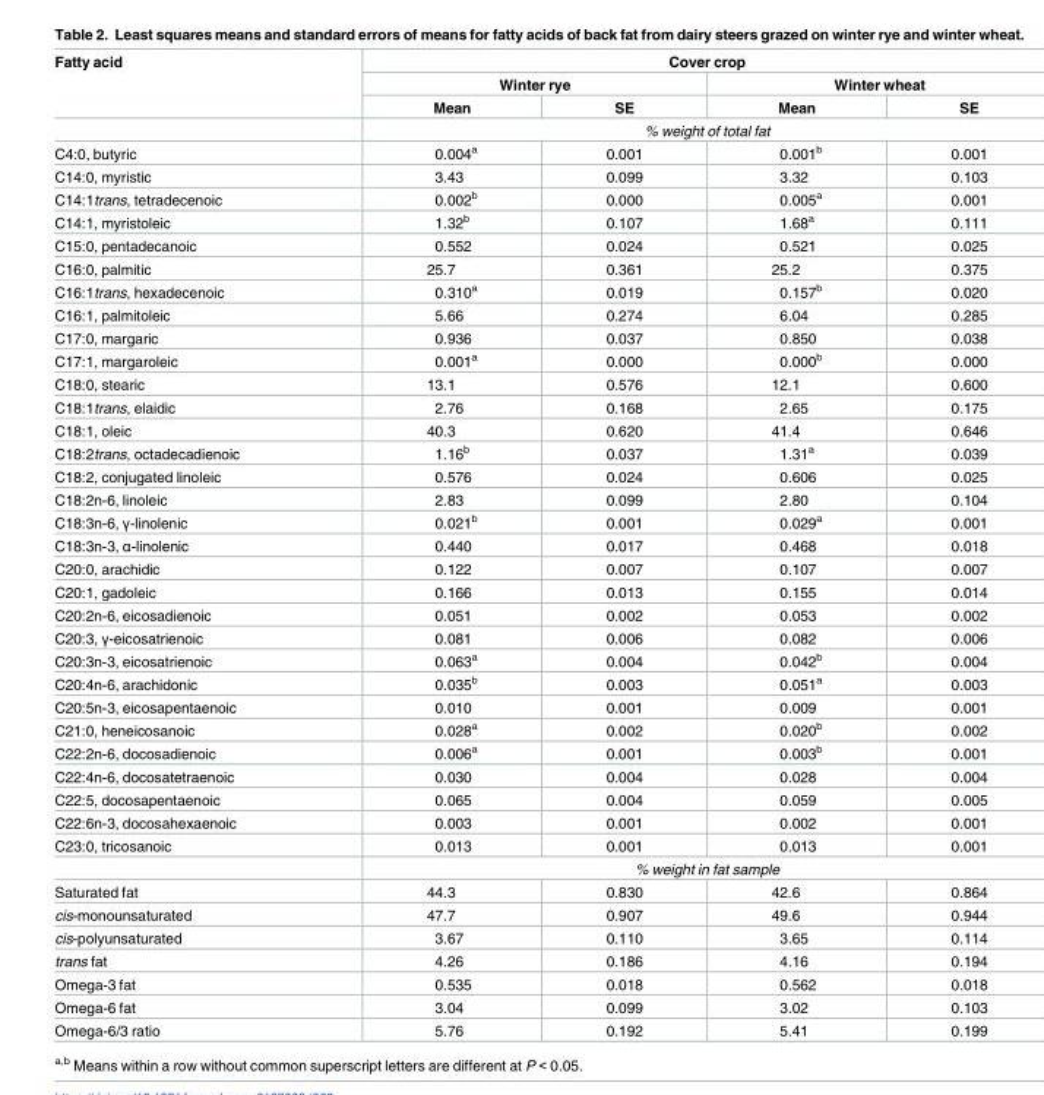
<table><thead><tr><td rowspan="3">Fatty acid</td><td colspan="4">Cover crop</td></tr><tr><td colspan="2">Winter rye</td><td colspan="2">Winter wheat</td></tr><tr><td>Mean</td><td>SE</td><td>Mean</td><td>SE</td></tr></thead><tbody><tr><td></td><td colspan="4">% weight of total fat</td></tr><tr><td>C4:0, butyric</td><td>0.004<sup>a</sup></td><td>0.001</td><td>0.001<sup>b</sup></td><td>0.001</td></tr><tr><td>C14:0, myristic</td><td>3.43</td><td>0.099</td><td>3.32</td><td>0.103</td></tr><tr><td>C14:1trans, tetradecenoic</td><td>0.002<sup>b</sup></td><td>0.000</td><td>0.005<sup>a</sup></td><td>0.001</td></tr><tr><td>C14:1, myristoleic</td><td>1.32<sup>b</sup></td><td>0.107</td><td>1.68<sup>a</sup></td><td>0.111</td></tr><tr><td>C15:0, pentadecanoic</td><td>0.552</td><td>0.024</td><td>0.521</td><td>0.025</td></tr><tr><td>C16:0, palmitic</td><td>25.7</td><td>0.361</td><td>25.2</td><td>0.375</td></tr><tr><td>C16:1trans, hexadecenoic</td><td>0.310<sup>a</sup></td><td>0.019</td><td>0.157<sup>b</sup></td><td>0.020</td></tr><tr><td>C16:1, palmitoleic</td><td>5.66</td><td>0.274</td><td>6.04</td><td>0.285</td></tr><tr><td>C17:0, margaric</td><td>0.936</td><td>0.037</td><td>0.850</td><td>0.038</td></tr><tr><td>C17:1, margaroleic</td><td>0.001<sup>a</sup></td><td>0.000</td><td>0.000<sup>b</sup></td><td>0.000</td></tr><tr><td>C18:0, stearic</td><td>13.1</td><td>0.576</td><td>12.1</td><td>0.600</td></tr><tr><td>C18:1trans, elaidic</td><td>2.76</td><td>0.168</td><td>2.65</td><td>0.175</td></tr><tr><td>C18:1, oleic</td><td>40.3</td><td>0.620</td><td>41.4</td><td>0.646</td></tr><tr><td>C18:2trans, octadecadienoic</td><td>1.16<sup>b</sup></td><td>0.037</td><td>1.31<sup>a</sup></td><td>0.039</td></tr><tr><td>C18:2, conjugated linoleic</td><td>0.576</td><td>0.024</td><td>0.606</td><td>0.025</td></tr><tr><td>C18:2n-6, linoleic</td><td>2.83</td><td>0.099</td><td>2.80</td><td>0.104</td></tr><tr><td>C18:3n-6, γ-linolenic</td><td>0.021<sup>b</sup></td><td>0.001</td><td>0.029<sup>a</sup></td><td>0.001</td></tr><tr><td>C18:3n-3, α-linolenic</td><td>0.440</td><td>0.017</td><td>0.468</td><td>0.018</td></tr><tr><td>C20:0, arachidic</td><td>0.122</td><td>0.007</td><td>0.107</td><td>0.007</td></tr><tr><td>C20:1, gadoleic</td><td>0.166</td><td>0.013</td><td>0.155</td><td>0.014</td></tr><tr><td>C20:2n-6, eicosadienoic</td><td>0.051</td><td>0.002</td><td>0.053</td><td>0.002</td></tr><tr><td>C20:3, γ-eicosatrienoic</td><td>0.081</td><td>0.006</td><td>0.082</td><td>0.006</td></tr><tr><td>C20:3n-3, eicosatrienoic</td><td>0.063<sup>a</sup></td><td>0.004</td><td>0.042<sup>b</sup></td><td>0.004</td></tr><tr><td>C20:4n-6, arachidonic</td><td>0.035<sup>b</sup></td><td>0.003</td><td>0.051<sup>a</sup></td><td>0.003</td></tr><tr><td>C20:5n-3, eicosapentaenoic</td><td>0.010</td><td>0.001</td><td>0.009</td><td>0.001</td></tr><tr><td>C21:0, heneicosanoic</td><td>0.028<sup>a</sup></td><td>0.002</td><td>0.020<sup>b</sup></td><td>0.002</td></tr><tr><td>C22:2n-6, docosadienoic</td><td>0.006<sup>a</sup></td><td>0.001</td><td>0.003<sup>b</sup></td><td>0.001</td></tr><tr><td>C22:4n-6, docosatetraenoic</td><td>0.030</td><td>0.004</td><td>0.028</td><td>0.004</td></tr><tr><td>C22:5, docosapentaenoic</td><td>0.065</td><td>0.004</td><td>0.059</td><td>0.005</td></tr><tr><td>C22:6n-3, docosahexaenoic</td><td>0.003</td><td>0.001</td><td>0.002</td><td>0.001</td></tr><tr><td rowspan="2">C23:0, tricosanoic</td><td>0.013</td><td>0.001</td><td>0.013</td><td>0.001</td></tr><tr><td colspan="4">% weight in fat sample</td></tr><tr><td>Saturated fat</td><td>44.3</td><td>0.830</td><td>42.6</td><td>0.864</td></tr><tr><td>cis-monounsaturated</td><td>47.7</td><td>0.907</td><td>49.6</td><td>0.944</td></tr><tr><td>cis-polyunsaturated</td><td>3.67</td><td>0.110</td><td>3.65</td><td>0.114</td></tr><tr><td>trans fat</td><td>4.26</td><td>0.186</td><td>4.16</td><td>0.194</td></tr><tr><td>Omega-3 fat</td><td>0.535</td><td>0.018</td><td>0.562</td><td>0.018</td></tr><tr><td>Omega-6 fat</td><td>3.04</td><td>0.099</td><td>3.02</td><td>0.103</td></tr><tr><td>Omega-6/3 ratio</td><td>5.76</td><td>0.192</td><td>5.41</td><td>0.199</td></tr></tbody></table>